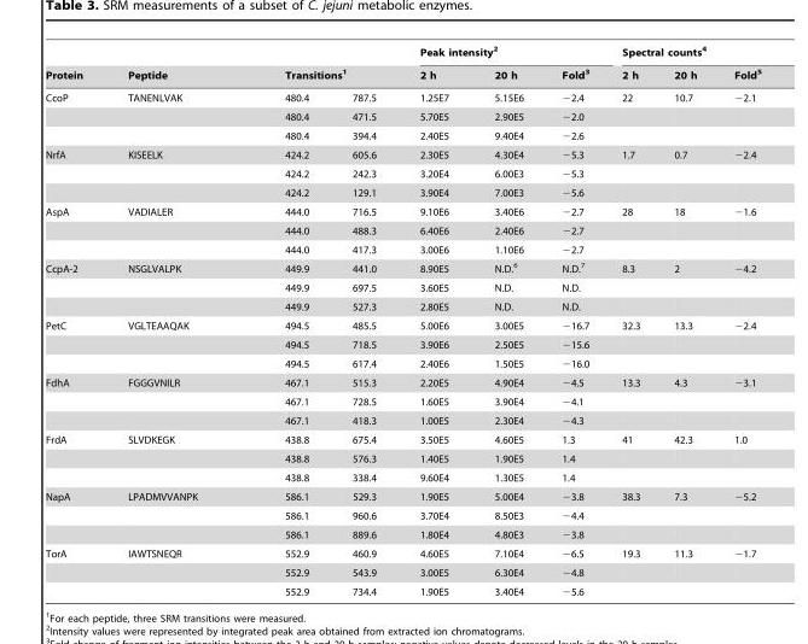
<table><thead><tr><td rowspan="2">Protein</td><td rowspan="2">Peptide</td><td></td><td></td><td colspan="3">Peak intensity<sup>2</sup></td><td colspan="3">Spectral counts<sup>4</sup></td></tr><tr><td colspan="2">Transitions<sup>1</sup></td><td>2 h</td><td>20 h</td><td>Fold<sup>3</sup></td><td>2 h</td><td>20 h</td><td>Fold<sup>5</sup></td></tr></thead><tbody><tr><td rowspan="3">CcoP</td><td>TANENLVAK</td><td>480.4</td><td>787.5</td><td>1.25E7</td><td>5.15E6</td><td>−2.4</td><td>22</td><td>10.7</td><td>−2.1</td></tr><tr><td></td><td>480.4</td><td>471.5</td><td>5.70E5</td><td>2.90E5</td><td>−2.0</td><td></td><td></td><td></td></tr><tr><td></td><td>480.4</td><td>394.4</td><td>2.40E5</td><td>9.40E4</td><td>−2.6</td><td></td><td></td><td></td></tr><tr><td rowspan="3">NrfA</td><td>KISEELK</td><td>424.2</td><td>605.6</td><td>2.30E5</td><td>4.30E4</td><td>−5.3</td><td>1.7</td><td>0.7</td><td>−2.4</td></tr><tr><td></td><td>424.2</td><td>242.3</td><td>3.20E4</td><td>6.00E3</td><td>−5.3</td><td></td><td></td><td></td></tr><tr><td></td><td>424.2</td><td>129.1</td><td>3.90E4</td><td>7.00E3</td><td>−5.6</td><td></td><td></td><td></td></tr><tr><td rowspan="3">AspA</td><td>VADIALER</td><td>444.0</td><td>716.5</td><td>9.10E6</td><td>3.40E6</td><td>−2.7</td><td>28</td><td>18</td><td>−1.6</td></tr><tr><td></td><td>444.0</td><td>488.3</td><td>6.40E6</td><td>2.40E6</td><td>−2.7</td><td></td><td></td><td></td></tr><tr><td></td><td>444.0</td><td>417.3</td><td>3.00E6</td><td>1.10E6</td><td>−2.7</td><td></td><td></td><td></td></tr><tr><td rowspan="3">CcpA-2</td><td>NSGLVALPK</td><td>449.9</td><td>441.0</td><td>8.90E5</td><td>N.D.<sup>6</sup></td><td>N.D.<sup>7</sup></td><td>8.3</td><td>2</td><td>−4.2</td></tr><tr><td></td><td>449.9</td><td>697.5</td><td>3.60E5</td><td>N.D.</td><td>N.D.</td><td></td><td></td><td></td></tr><tr><td></td><td>449.9</td><td>527.3</td><td>2.80E5</td><td>N.D.</td><td>N.D.</td><td></td><td></td><td></td></tr><tr><td rowspan="3">PetC</td><td>VGLTEAAQAK</td><td>494.5</td><td>485.5</td><td>5.00E6</td><td>3.00E5</td><td>−16.7</td><td>32.3</td><td>13.3</td><td>−2.4</td></tr><tr><td></td><td>494.5</td><td>718.5</td><td>3.90E6</td><td>2.50E5</td><td>−15.6</td><td></td><td></td><td></td></tr><tr><td></td><td>494.5</td><td>617.4</td><td>2.40E6</td><td>1.50E5</td><td>−16.0</td><td></td><td></td><td></td></tr><tr><td rowspan="3">FdhA</td><td>FGGGVNILR</td><td>467.1</td><td>515.3</td><td>2.20E5</td><td>4.90E4</td><td>−4.5</td><td>13.3</td><td>4.3</td><td>−3.1</td></tr><tr><td></td><td>467.1</td><td>728.5</td><td>1.60E5</td><td>3.90E4</td><td>−4.1</td><td></td><td></td><td></td></tr><tr><td></td><td>467.1</td><td>418.3</td><td>1.00E5</td><td>2.30E4</td><td>−4.3</td><td></td><td></td><td></td></tr><tr><td rowspan="3">FrdA</td><td>SLVDKEGK</td><td>438.8</td><td>675.4</td><td>3.50E5</td><td>4.60E5</td><td>1.3</td><td>41</td><td>42.3</td><td>1.0</td></tr><tr><td></td><td>438.8</td><td>576.3</td><td>1.40E5</td><td>1.90E5</td><td>1.4</td><td></td><td></td><td></td></tr><tr><td></td><td>438.8</td><td>338.4</td><td>9.60E4</td><td>1.30E5</td><td>1.4</td><td></td><td></td><td></td></tr><tr><td rowspan="3">NapA</td><td>LPADMVVANPK</td><td>586.1</td><td>529.3</td><td>1.90E5</td><td>5.00E4</td><td>−3.8</td><td>38.3</td><td>7.3</td><td>−5.2</td></tr><tr><td></td><td>586.1</td><td>960.6</td><td>3.70E4</td><td>8.50E3</td><td>−4.4</td><td></td><td></td><td></td></tr><tr><td></td><td>586.1</td><td>889.6</td><td>1.80E4</td><td>4.80E3</td><td>−3.8</td><td></td><td></td><td></td></tr><tr><td rowspan="3">TorA</td><td>IAWTSNEQR</td><td>552.9</td><td>460.9</td><td>4.60E5</td><td>7.10E4</td><td>−6.5</td><td>19.3</td><td>11.3</td><td>−1.7</td></tr><tr><td></td><td>552.9</td><td>543.9</td><td>3.00E5</td><td>6.30E4</td><td>−4.8</td><td></td><td></td><td></td></tr><tr><td></td><td>552.9</td><td>734.4</td><td>1.90E5</td><td>3.40E4</td><td>−5.6</td><td></td><td></td><td></td></tr></tbody></table>